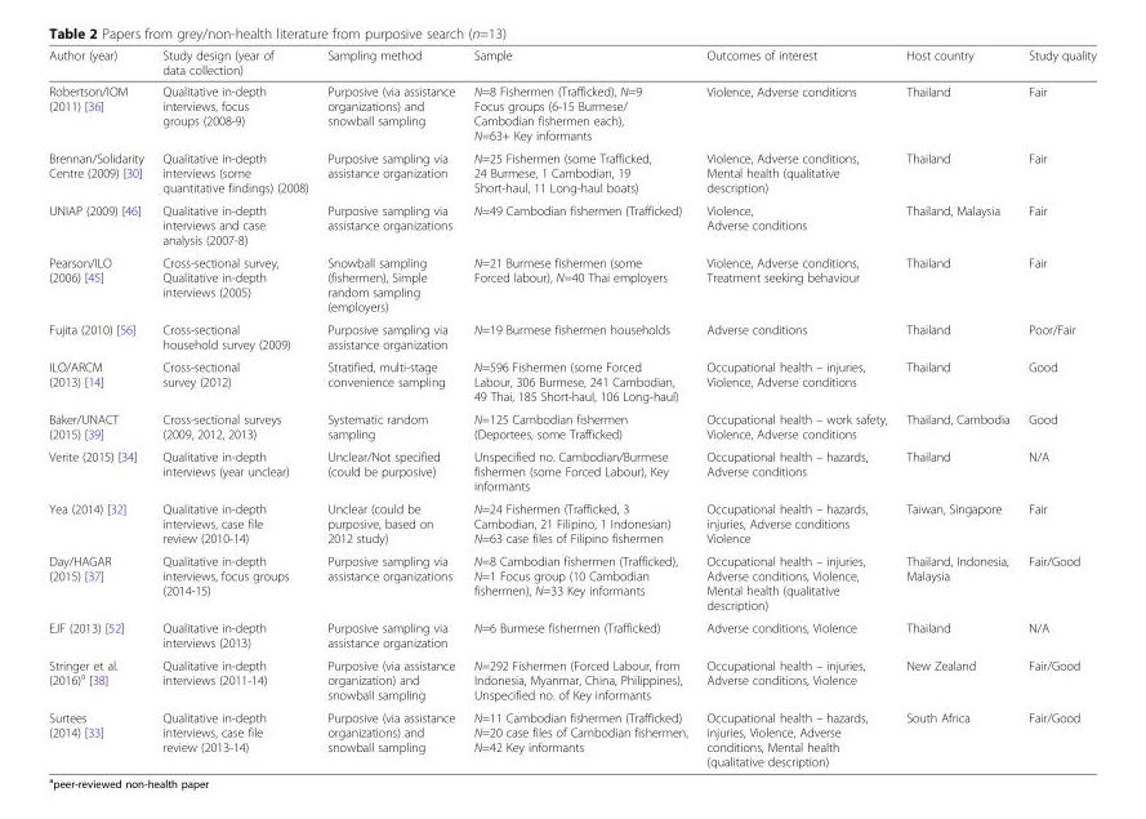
<table><thead><tr><td>Author (year)</td><td>Study design (year of data collection)</td><td>Sampling method</td><td>Sample</td><td>Outcomes of interest</td><td>Host country</td><td>Study quality</td></tr></thead><tbody><tr><td>Robertson/IOM (2011) [36]</td><td>Qualitative in-depth interviews, focus groups (2008-9)</td><td>Purposive (via assistance organizations) and snowball sampling</td><td>N=8 Fishermen (Trafficked), N=9 Focus groups (6-15 Burmese/ Cambodian fishermen each), N=63+ Key informants</td><td>Violence, Adverse conditions</td><td>Thailand</td><td>Fair</td></tr><tr><td>Brennan/Solidarity Centre (2009) [30]</td><td>Qualitative in-depth interviews (some quantitative findings) (2008)</td><td>Purposive sampling via assistance organization</td><td>N=25 Fishermen (some Trafficked, 24 Burmese, 1 Cambodian, 19 Short-haul, 11 Long-haul boats)</td><td>Violence, Adverse conditions, Mental health (qualitative description)</td><td>Thailand</td><td>Fair</td></tr><tr><td>UNIAP (2009) [46]</td><td>Qualitative in-depth interviews and case analysis (2007-8)</td><td>Purposive sampling via assistance organizations</td><td>N=49 Cambodian fishermen (Trafficked)</td><td>Violence, Adverse conditions</td><td>Thailand, Malaysia</td><td>Fair</td></tr><tr><td>Pearson/ILO (2006) [45]</td><td>Cross-sectional survey, Qualitative in-depth interviews (2005)</td><td>Snowball sampling (fishermen), Simple random sampling (employers)</td><td>N=21 Burmese fishermen (some Forced labour), N=40 Thai employers</td><td>Violence, Adverse conditions, Treatment seeking behaviour</td><td>Thailand</td><td>Fair</td></tr><tr><td>Fujita (2010) [56]</td><td>Cross-sectional household survey (2009)</td><td>Purposive sampling via assistance organization</td><td>N=19 Burmese fishermen households</td><td>Adverse conditions</td><td>Thailand</td><td>Poor/Fair</td></tr><tr><td>ILO/ARCM (2013) [14]</td><td>Cross-sectional survey (2012)</td><td>Stratified, multi-stage convenience sampling</td><td>N=596 Fishermen (some Forced Labour, 306 Burmese, 241 Cambodian, 49 Thai, 185 Short-haul, 106 Long-haul)</td><td>Occupational health – injuries, Violence, Adverse conditions</td><td>Thailand</td><td>Good</td></tr><tr><td>Baker/UNACT (2015) [39]</td><td>Cross-sectional surveys (2009, 2012, 2013)</td><td>Systematic random sampling</td><td>N=125 Cambodian fishermen (Deportees, some Trafficked)</td><td>Occupational health – work safety, Violence, Adverse conditions</td><td>Thailand, Cambodia</td><td>Good</td></tr><tr><td>Verite (2015) [34]</td><td>Qualitative in-depth interviews (year unclear)</td><td>Unclear/Not specified (could be purposive)</td><td>Unspecified no. Cambodian/Burmese fishermen (some Forced Labour), Key informants</td><td>Occupational health – hazards, Adverse conditions</td><td>Thailand</td><td>N/A</td></tr><tr><td>Yea (2014) [32]</td><td>Qualitative in-depth interviews, case file review (2010-14)</td><td>Unclear (could be purposive, based on 2012 study)</td><td>N=24 Fishermen (Trafficked, 3 Cambodian, 21 Filipino, 1 Indonesian) N=63 case files of Filipino fishermen</td><td>Occupational health – hazards, injuries, Adverse conditions Violence</td><td>Taiwan, Singapore</td><td>Fair</td></tr><tr><td>Day/HAGAR (2015) [37]</td><td>Qualitative in-depth interviews, focus groups (2014-15)</td><td>Purposive sampling via assistance organizations</td><td>N=8 Cambodian fishermen (Trafficked), N=1 Focus group (10 Cambodian fishermen), N=33 Key informants</td><td>Occupational health – injuries, Adverse conditions, Violence, Mental health (qualitative description)</td><td>Thailand, Indonesia, Malaysia</td><td>Fair/Good</td></tr><tr><td>EJF (2013) [52]</td><td>Qualitative in-depth interviews (2013)</td><td>Purposive sampling via assistance organization</td><td>N=6 Burmese fishermen (Trafficked)</td><td>Adverse conditions, Violence</td><td>Thailand</td><td>N/A</td></tr><tr><td>Stringer et al. (2016)<sup>a</sup> [38]</td><td>Qualitative in-depth interviews (2011-14)</td><td>Purposive (via assistance organization) and snowball sampling</td><td>N=292 Fishermen (Forced Labour, from Indonesia, Myanmar, China, Philippines), Unspecified no. of Key informants</td><td>Occupational health – injuries, Adverse conditions, Violence</td><td>New Zealand</td><td>Fair/Good</td></tr><tr><td>Surtees (2014) [33]</td><td>Qualitative in-depth interviews, case file review (2013-14)</td><td>Purposive (via assistance organizations) and snowball sampling</td><td>N=11 Cambodian fishermen (Trafficked) N=20 case files of Cambodian fishermen, N=42 Key informants</td><td>Occupational health – hazards, injuries, Violence, Adverse conditions, Mental health (qualitative description)</td><td>South Africa</td><td>Fair/Good</td></tr></tbody></table>